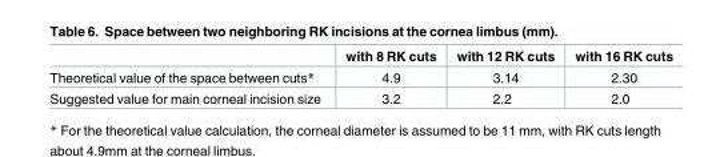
<table><thead><tr><td></td><td>with 8 RK cuts</td><td>with 12 RK cuts</td><td>with 16 RK cuts</td></tr></thead><tbody><tr><td>Theoretical value of the space between cuts*</td><td>4.9</td><td>3.14</td><td>2.30</td></tr><tr><td>Suggested value for main corneal incision size</td><td>3.2</td><td>2.2</td><td>2.0</td></tr></tbody></table>